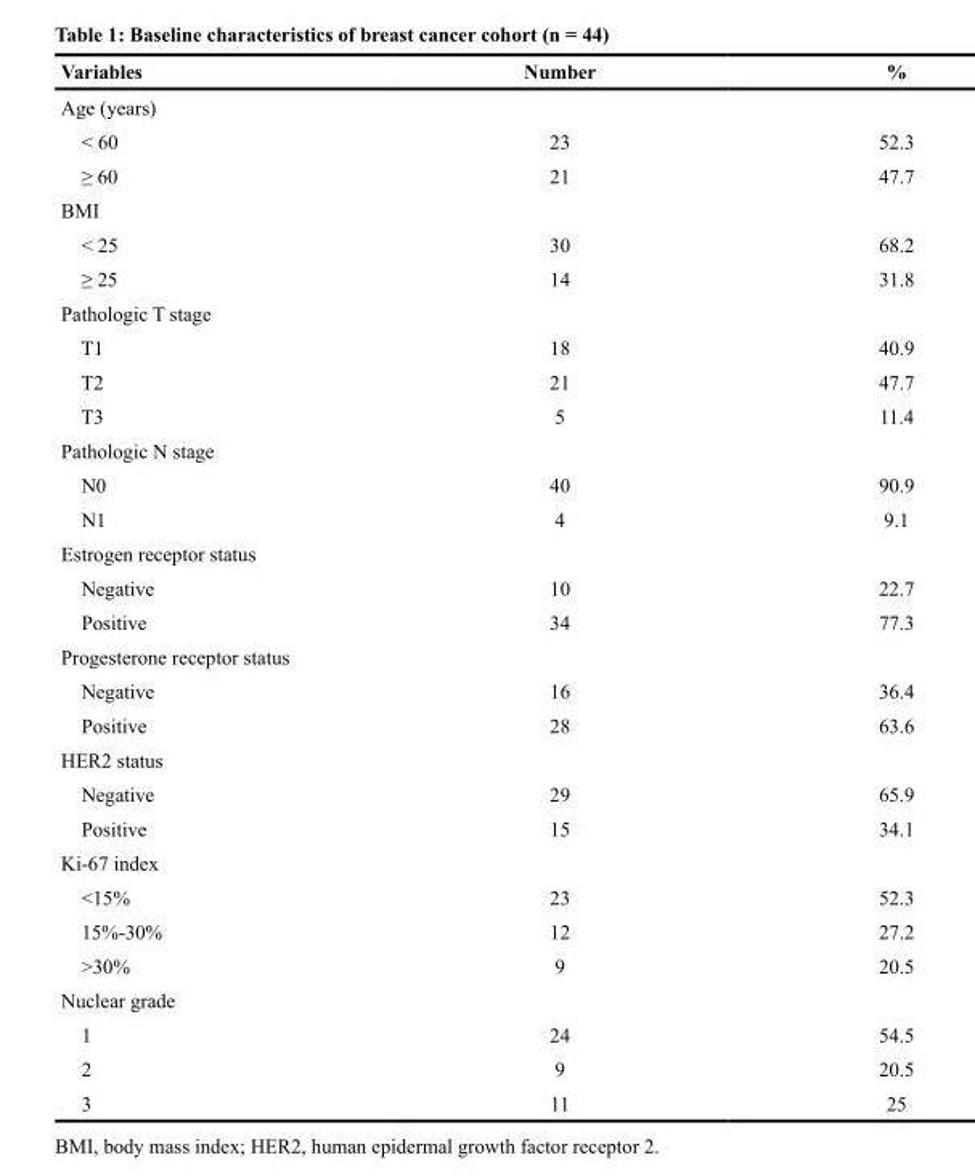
<table><thead><tr><td>Variables</td><td>Number</td><td>%</td></tr></thead><tbody><tr><td colspan="3">Age (years)</td></tr><tr><td>&lt; 60</td><td>23</td><td>52.3</td></tr><tr><td>≥ 60</td><td>21</td><td>47.7</td></tr><tr><td colspan="3">BMI</td></tr><tr><td>&lt; 25</td><td>30</td><td>68.2</td></tr><tr><td>≥ 25</td><td>14</td><td>31.8</td></tr><tr><td colspan="3">Pathologic T stage</td></tr><tr><td>T1</td><td>18</td><td>40.9</td></tr><tr><td>T2</td><td>21</td><td>47.7</td></tr><tr><td>T3</td><td>5</td><td>11.4</td></tr><tr><td colspan="3">Pathologic N stage</td></tr><tr><td>N0</td><td>40</td><td>90.9</td></tr><tr><td>N1</td><td>4</td><td>9.1</td></tr><tr><td colspan="3">Estrogen receptor status</td></tr><tr><td>Negative</td><td>10</td><td>22.7</td></tr><tr><td>Positive</td><td>34</td><td>77.3</td></tr><tr><td colspan="3">Progesterone receptor status</td></tr><tr><td>Negative</td><td>16</td><td>36.4</td></tr><tr><td>Positive</td><td>28</td><td>63.6</td></tr><tr><td colspan="3">HER2 status</td></tr><tr><td>Negative</td><td>29</td><td>65.9</td></tr><tr><td>Positive</td><td>15</td><td>34.1</td></tr><tr><td colspan="3">Ki-67 index</td></tr><tr><td>&lt;15%</td><td>23</td><td>52.3</td></tr><tr><td>15%-30%</td><td>12</td><td>27.2</td></tr><tr><td>&gt;30%</td><td>9</td><td>20.5</td></tr><tr><td colspan="3">Nuclear grade</td></tr><tr><td>1</td><td>24</td><td>54.5</td></tr><tr><td>2</td><td>9</td><td>20.5</td></tr><tr><td>3</td><td>11</td><td>25</td></tr></tbody></table>